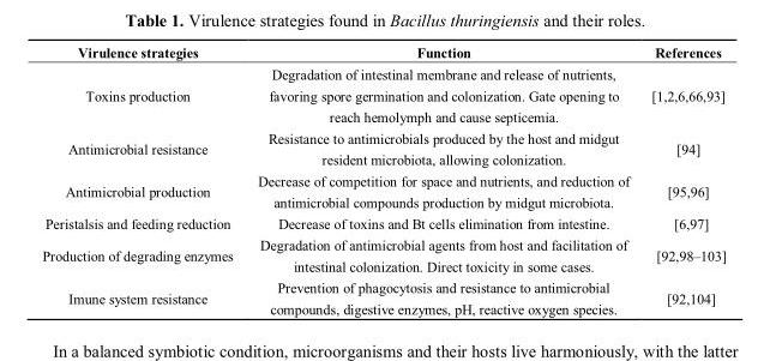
<table><thead><tr><td>Virulence strategies</td><td>Function</td><td>References</td></tr></thead><tbody><tr><td>Toxins production</td><td>Degradation of intestinal membrane and release of nutrients, favoring spore germination and colonization. Gate opening to reach hemolymph and cause septicemia.</td><td>[1,2,6,66,93]</td></tr><tr><td>Antimicrobial resistance</td><td>Resistance to antimicrobials produced by the host and midgut resident microbiota, allowing colonization.</td><td>[94]</td></tr><tr><td>Antimicrobial production</td><td>Decrease of competition for space and nutrients, and reduction of antimicrobial compounds production by midgut microbiota.</td><td>[95,96]</td></tr><tr><td>Peristalsis and feeding reduction</td><td>Decrease of toxins and Bt cells elimination from intestine.</td><td>[6,97]</td></tr><tr><td>Production of degrading enzymes</td><td>Degradation of antimicrobial agents from host and facilitation of intestinal colonization. Direct toxicity in some cases.</td><td>[92,98�103]</td></tr><tr><td>Imune system resistance</td><td>Prevention of phagocytosis and resistance to antimicrobial compounds, digestive enzymes, pH, reactive oxygen species.</td><td>[92,104]</td></tr></tbody></table>